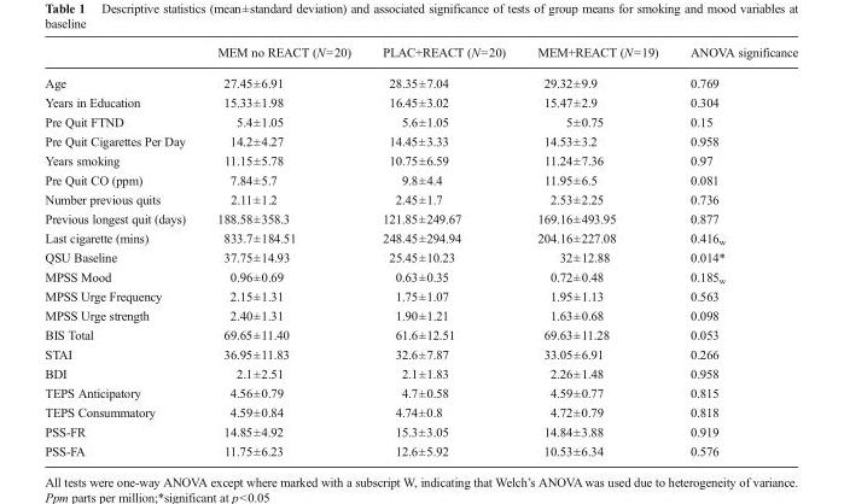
<table><thead><tr><td></td><td>MEM no REACT (N=20)</td><td>PLAC+REACT (N=20)</td><td>MEM+REACT (N=19)</td><td>ANOVA significance</td></tr></thead><tbody><tr><td>Age</td><td>27.45±6.91</td><td>28.35±7.04</td><td>29.32±9.9</td><td>0.769</td></tr><tr><td>Years in Education</td><td>15.33±1.98</td><td>16.45±3.02</td><td>15.47±2.9</td><td>0.304</td></tr><tr><td>Pre Quit FTND</td><td>5.4±1.05</td><td>5.6±1.05</td><td>5±0.75</td><td>0.15</td></tr><tr><td>Pre Quit Cigarettes Per Day</td><td>14.2±4.27</td><td>14.45±3.33</td><td>14.53±3.2</td><td>0.958</td></tr><tr><td>Years smoking</td><td>11.15±5.78</td><td>10.75±6.59</td><td>11.24±7.36</td><td>0.97</td></tr><tr><td>Pre Quit CO (ppm)</td><td>7.84±5.7</td><td>9.8±4.4</td><td>11.95±6.5</td><td>0.081</td></tr><tr><td>Number previous quits</td><td>2.11±1.2</td><td>2.45±1.7</td><td>2.53±2.25</td><td>0.736</td></tr><tr><td>Previous longest quit (days)</td><td>188.58±358.3</td><td>121.85±249.67</td><td>169.16±493.95</td><td>0.877</td></tr><tr><td>Last cigarette (mins)</td><td>833.7±184.51</td><td>248.45±294.94</td><td>204.16±227.08</td><td>0.416<sub>w</sub></td></tr><tr><td>QSU Baseline</td><td>37.75±14.93</td><td>25.45±10.23</td><td>32±12.88</td><td>0.014*</td></tr><tr><td>MPSS Mood</td><td>0.96±0.69</td><td>0.63±0.35</td><td>0.72±0.48</td><td>0.185<sub>w</sub></td></tr><tr><td>MPSS Urge Frequency</td><td>2.15±1.31</td><td>1.75±1.07</td><td>1.95±1.13</td><td>0.563</td></tr><tr><td>MPSS Urge strength</td><td>2.40±1.31</td><td>1.90±1.21</td><td>1.63±0.68</td><td>0.098</td></tr><tr><td>BIS Total</td><td>69.65±11.40</td><td>61.6±12.51</td><td>69.63±11.28</td><td>0.053</td></tr><tr><td>STAI</td><td>36.95±11.83</td><td>32.6±7.87</td><td>33.05±6.91</td><td>0.266</td></tr><tr><td>BDI</td><td>2.1±2.51</td><td>2.1±1.83</td><td>2.26±1.48</td><td>0.958</td></tr><tr><td>TEPS Anticipatory</td><td>4.56±0.79</td><td>4.7±0.58</td><td>4.59±0.77</td><td>0.815</td></tr><tr><td>TEPS Consummatory</td><td>4.59±0.84</td><td>4.74±0.8</td><td>4.72±0.79</td><td>0.818</td></tr><tr><td>PSS-FR</td><td>14.85±4.92</td><td>15.3±3.05</td><td>14.84±3.88</td><td>0.919</td></tr><tr><td>PSS-FA</td><td>11.75±6.23</td><td>12.6±5.92</td><td>10.53±6.34</td><td>0.576</td></tr></tbody></table>